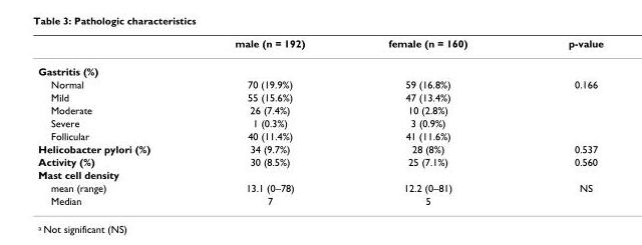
<table><thead><tr><td></td><td>male (n = 192)</td><td>female (n = 160)</td><td>p-value</td></tr></thead><tbody><tr><td colspan="4">Gastritis (%)</td></tr><tr><td>Normal</td><td>70 (19.9%)</td><td>59 (16.8%)</td><td>0.166</td></tr><tr><td>Mild</td><td>55 (15.6%)</td><td>47 (13.4%)</td><td></td></tr><tr><td>Moderate</td><td>26 (7.4%)</td><td>10 (2.8%)</td><td></td></tr><tr><td>Severe</td><td>1 (0.3%)</td><td>3 (0.9%)</td><td></td></tr><tr><td>Follicular</td><td>40 (11.4%)</td><td>41 (11.6%)</td><td></td></tr><tr><td>Helicobacter pylori (%)</td><td>34 (9.7%)</td><td>28 (8%)</td><td>0.537</td></tr><tr><td>Activity (%)</td><td>30 (8.5%)</td><td>25 (7.1%)</td><td>0.560</td></tr><tr><td colspan="4">Mast cell density</td></tr><tr><td>mean (range)</td><td>13.1 (0–78)</td><td>12.2 (0–81)</td><td>NS</td></tr><tr><td>Median</td><td>7</td><td>5</td><td></td></tr></tbody></table>